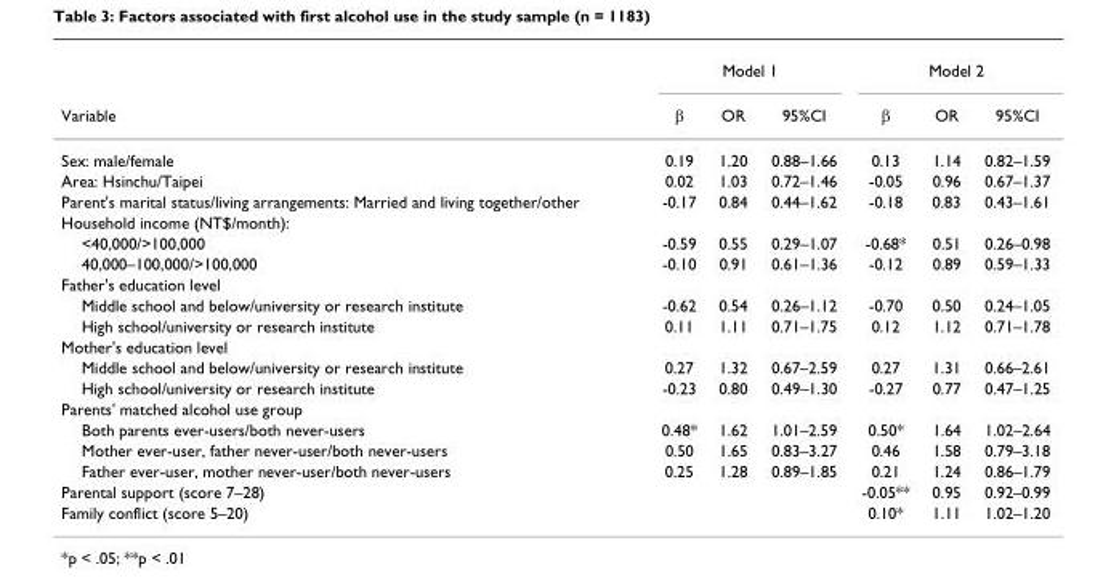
<table><thead><tr><td rowspan="2">Variable</td><td colspan="3">Model 1</td><td colspan="3">Model 2</td></tr><tr><td>β</td><td>OR</td><td>95%CI</td><td>β</td><td>OR</td><td>95%CI</td></tr></thead><tbody><tr><td>Sex: male/female</td><td>0.19</td><td>1.20</td><td>0.88–1.66</td><td>0.13</td><td>1.14</td><td>0.82–1.59</td></tr><tr><td>Area: Hsinchu/Taipei</td><td>0.02</td><td>1.03</td><td>0.72–1.46</td><td>-0.05</td><td>0.96</td><td>0.67–1.37</td></tr><tr><td>Parent&#x27;s marital status/living arrangements: Married and living together/other</td><td>-0.17</td><td>0.84</td><td>0.44–1.62</td><td>-0.18</td><td>0.83</td><td>0.43–1.61</td></tr><tr><td colspan="7">Household income (NT$/month):</td></tr><tr><td>&lt;40,000/&gt;100,000</td><td>-0.59</td><td>0.55</td><td>0.29–1.07</td><td>-0.68*</td><td>0.51</td><td>0.26–0.98</td></tr><tr><td>40,000–100,000/&gt;100,000</td><td>-0.10</td><td>0.91</td><td>0.61–1.36</td><td>-0.12</td><td>0.89</td><td>0.59–1.33</td></tr><tr><td colspan="7">Father&#x27;s education level</td></tr><tr><td>Middle school and below/university or research institute</td><td>-0.62</td><td>0.54</td><td>0.26–1.12</td><td>-0.70</td><td>0.50</td><td>0.24–1.05</td></tr><tr><td>High school/university or research institute</td><td>0.11</td><td>1.11</td><td>0.71–1.75</td><td>0.12</td><td>1.12</td><td>0.71–1.78</td></tr><tr><td colspan="7">Mother&#x27;s education level</td></tr><tr><td>Middle school and below/university or research institute</td><td>0.27</td><td>1.32</td><td>0.67–2.59</td><td>0.27</td><td>1.31</td><td>0.66–2.61</td></tr><tr><td>High school/university or research institute</td><td>-0.23</td><td>0.80</td><td>0.49–1.30</td><td>-0.27</td><td>0.77</td><td>0.47–1.25</td></tr><tr><td colspan="7">Parents&#x27; matched alcohol use group</td></tr><tr><td>Both parents ever-users/both never-users</td><td>0.48*</td><td>1.62</td><td>1.01–2.59</td><td>0.50*</td><td>1.64</td><td>1.02–2.64</td></tr><tr><td>Mother ever-user, father never-user/both never-users</td><td>0.50</td><td>1.65</td><td>0.83–3.27</td><td>0.46</td><td>1.58</td><td>0.79–3.18</td></tr><tr><td>Father ever-user, mother never-user/both never-users</td><td>0.25</td><td>1.28</td><td>0.89–1.85</td><td>0.21</td><td>1.24</td><td>0.86–1.79</td></tr><tr><td>Parental support (score 7–28)</td><td></td><td></td><td></td><td>-0.05**</td><td>0.95</td><td>0.92–0.99</td></tr><tr><td>Family conflict (score 5–20)</td><td></td><td></td><td></td><td>0.10*</td><td>1.11</td><td>1.02–1.20</td></tr></tbody></table>